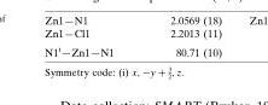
<table><tbody><tr><td>N1<sup>i</sup>—Zn1—N1</td><td>80.71 (10)</td></tr></tbody></table>